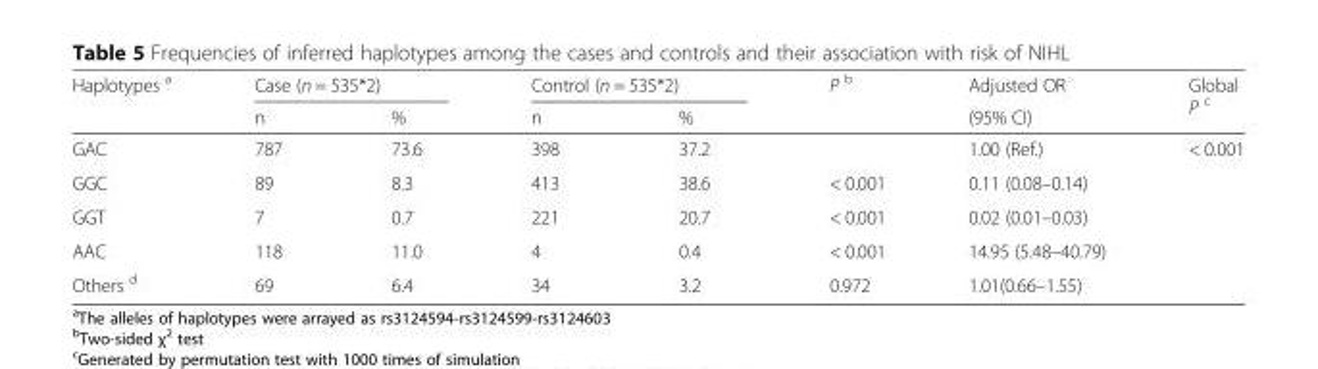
<table><thead><tr><td rowspan="2">Haplotypes <sup>a</sup></td><td colspan="2">Case (n = 535*2)</td><td colspan="2">Control (n = 535*2)</td><td rowspan="2">P <sup>b</sup></td><td rowspan="2">Adjusted OR (95% CI)</td><td rowspan="2">Global P <sup>c</sup></td></tr><tr><td>n</td><td>%</td><td>n</td><td>%</td></tr></thead><tbody><tr><td>GAC</td><td>787</td><td>73.6</td><td>398</td><td>37.2</td><td></td><td>1.00 (Ref.)</td><td>&lt; 0.001</td></tr><tr><td>GGC</td><td>89</td><td>8.3</td><td>413</td><td>38.6</td><td>&lt; 0.001</td><td>0.11 (0.08–0.14)</td><td></td></tr><tr><td>GGT</td><td>7</td><td>0.7</td><td>221</td><td>20.7</td><td>&lt; 0.001</td><td>0.02 (0.01–0.03)</td><td></td></tr><tr><td>AAC</td><td>118</td><td>11.0</td><td>4</td><td>0.4</td><td>&lt; 0.001</td><td>14.95 (5.48–40.79)</td><td></td></tr><tr><td>Others <sup>d</sup></td><td>69</td><td>6.4</td><td>34</td><td>3.2</td><td>0.972</td><td>1.01(0.66–1.55)</td><td></td></tr></tbody></table>